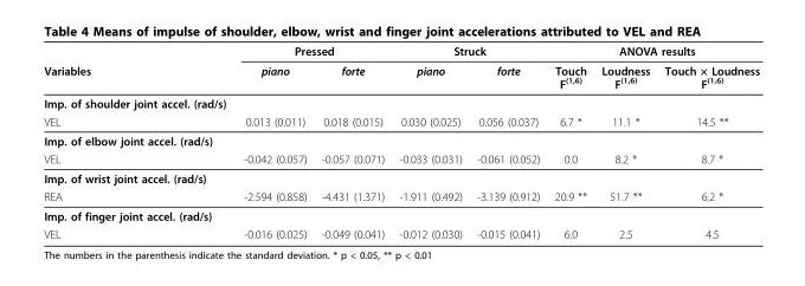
<table><thead><tr><td rowspan="2">Variables</td><td colspan="2">Pressed</td><td colspan="2">Struck</td><td colspan="3">ANOVA results</td></tr><tr><td>piano</td><td>forte</td><td>piano</td><td>forte</td><td>Touch F<sup>(1,6)</sup></td><td>Loudness F<sup>(1,6)</sup></td><td>Touch × Loudness F<sup>(1,6)</sup></td></tr></thead><tbody><tr><td colspan="8">Imp. of shoulder joint accel. (rad/s)</td></tr><tr><td>VEL</td><td>0.013 (0.011)</td><td>0.018 (0.015)</td><td>0.030 (0.025)</td><td>0.056 (0.037)</td><td>6.7 *</td><td>11.1 *</td><td>14.5 **</td></tr><tr><td colspan="8">Imp. of elbow joint accel. (rad/s)</td></tr><tr><td>VEL</td><td>-0.042 (0.057)</td><td>-0.057 (0.071)</td><td>-0.033 (0.031)</td><td>-0.061 (0.052)</td><td>0.0</td><td>8.2 *</td><td>8.7 *</td></tr><tr><td colspan="8">Imp. of wrist joint accel. (rad/s)</td></tr><tr><td>REA</td><td>-2.594 (0.858)</td><td>-4.431 (1.371)</td><td>-1.911 (0.492)</td><td>-3.139 (0.912)</td><td>20.9 **</td><td>51.7 **</td><td>6.2 *</td></tr><tr><td colspan="8">Imp. of finger joint accel. (rad/s)</td></tr><tr><td>VEL</td><td>-0.016 (0.025)</td><td>-0.049 (0.041)</td><td>-0.012 (0.030)</td><td>-0.015 (0.041)</td><td>6.0</td><td>2.5</td><td>4.5</td></tr></tbody></table>